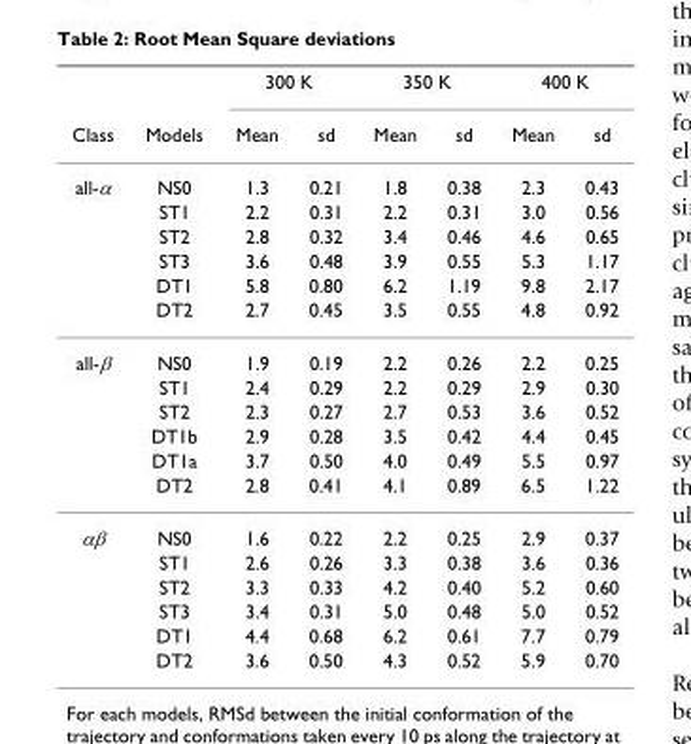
<table><thead><tr><td rowspan="2">Class</td><td rowspan="2">Models</td><td colspan="2">300 K</td><td colspan="2">350 K</td><td colspan="2">400 K</td></tr><tr><td>Mean</td><td>sd</td><td>Mean</td><td>sd</td><td>Mean</td><td>sd</td></tr></thead><tbody><tr><td rowspan="6">all-α</td><td>NS0</td><td>1.3</td><td>0.21</td><td>1.8</td><td>0.38</td><td>2.3</td><td>0.43</td></tr><tr><td>ST1</td><td>2.2</td><td>0.31</td><td>2.2</td><td>0.31</td><td>3.0</td><td>0.56</td></tr><tr><td>ST2</td><td>2.8</td><td>0.32</td><td>3.4</td><td>0.46</td><td>4.6</td><td>0.65</td></tr><tr><td>ST3</td><td>3.6</td><td>0.48</td><td>3.9</td><td>0.55</td><td>5.3</td><td>1.17</td></tr><tr><td>DT1</td><td>5.8</td><td>0.80</td><td>6.2</td><td>1.19</td><td>9.8</td><td>2.17</td></tr><tr><td>DT2</td><td>2.7</td><td>0.45</td><td>3.5</td><td>0.55</td><td>4.8</td><td>0.92</td></tr><tr><td rowspan="6">all-β</td><td>NS0</td><td>1.9</td><td>0.19</td><td>2.2</td><td>0.26</td><td>2.2</td><td>0.25</td></tr><tr><td>ST1</td><td>2.4</td><td>0.29</td><td>2.2</td><td>0.29</td><td>2.9</td><td>0.30</td></tr><tr><td>ST2</td><td>2.3</td><td>0.27</td><td>2.7</td><td>0.53</td><td>3.6</td><td>0.52</td></tr><tr><td>DT1b</td><td>2.9</td><td>0.28</td><td>3.5</td><td>0.42</td><td>4.4</td><td>0.45</td></tr><tr><td>DT1a</td><td>3.7</td><td>0.50</td><td>4.0</td><td>0.49</td><td>5.5</td><td>0.97</td></tr><tr><td>DT2</td><td>2.8</td><td>0.41</td><td>4.1</td><td>0.89</td><td>6.5</td><td>1.22</td></tr><tr><td rowspan="6">αβ</td><td>NS0</td><td>1.6</td><td>0.22</td><td>2.2</td><td>0.25</td><td>2.9</td><td>0.37</td></tr><tr><td>ST1</td><td>2.6</td><td>0.26</td><td>3.3</td><td>0.38</td><td>3.6</td><td>0.36</td></tr><tr><td>ST2</td><td>3.3</td><td>0.33</td><td>4.2</td><td>0.40</td><td>5.2</td><td>0.60</td></tr><tr><td>ST3</td><td>3.4</td><td>0.31</td><td>5.0</td><td>0.48</td><td>5.0</td><td>0.52</td></tr><tr><td>DT1</td><td>4.4</td><td>0.68</td><td>6.2</td><td>0.61</td><td>7.7</td><td>0.79</td></tr><tr><td>DT2</td><td>3.6</td><td>0.50</td><td>4.3</td><td>0.52</td><td>5.9</td><td>0.70</td></tr></tbody></table>